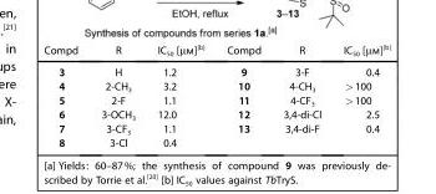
<table><thead><tr><td>Compd</td><td>R</td><td>IC<sub>50</sub> [μm]<sup>[b]</sup></td><td>Compd</td><td>R</td><td>IC<sub>50</sub> [μm]<sup>[b]</sup></td></tr></thead><tbody><tr><td>3</td><td>H</td><td>1.2</td><td>9</td><td>3-F</td><td>0.4</td></tr><tr><td>4</td><td>2-CH<sub>3</sub></td><td>3.2</td><td>10</td><td>4-CH<sub>3</sub></td><td>&gt;100</td></tr><tr><td>5</td><td>2-F</td><td>1.1</td><td>11</td><td>4-CF<sub>3</sub></td><td>&gt;100</td></tr><tr><td>6</td><td>3-OCH<sub>3</sub></td><td>12.0</td><td>12</td><td>3,4-di-Cl</td><td>2.5</td></tr><tr><td>7</td><td>3-CF<sub>3</sub></td><td>1.1</td><td>13</td><td>3,4-di-F</td><td>0.4</td></tr><tr><td>8</td><td>3-Cl</td><td>0.4</td><td></td><td></td><td></td></tr></tbody></table>